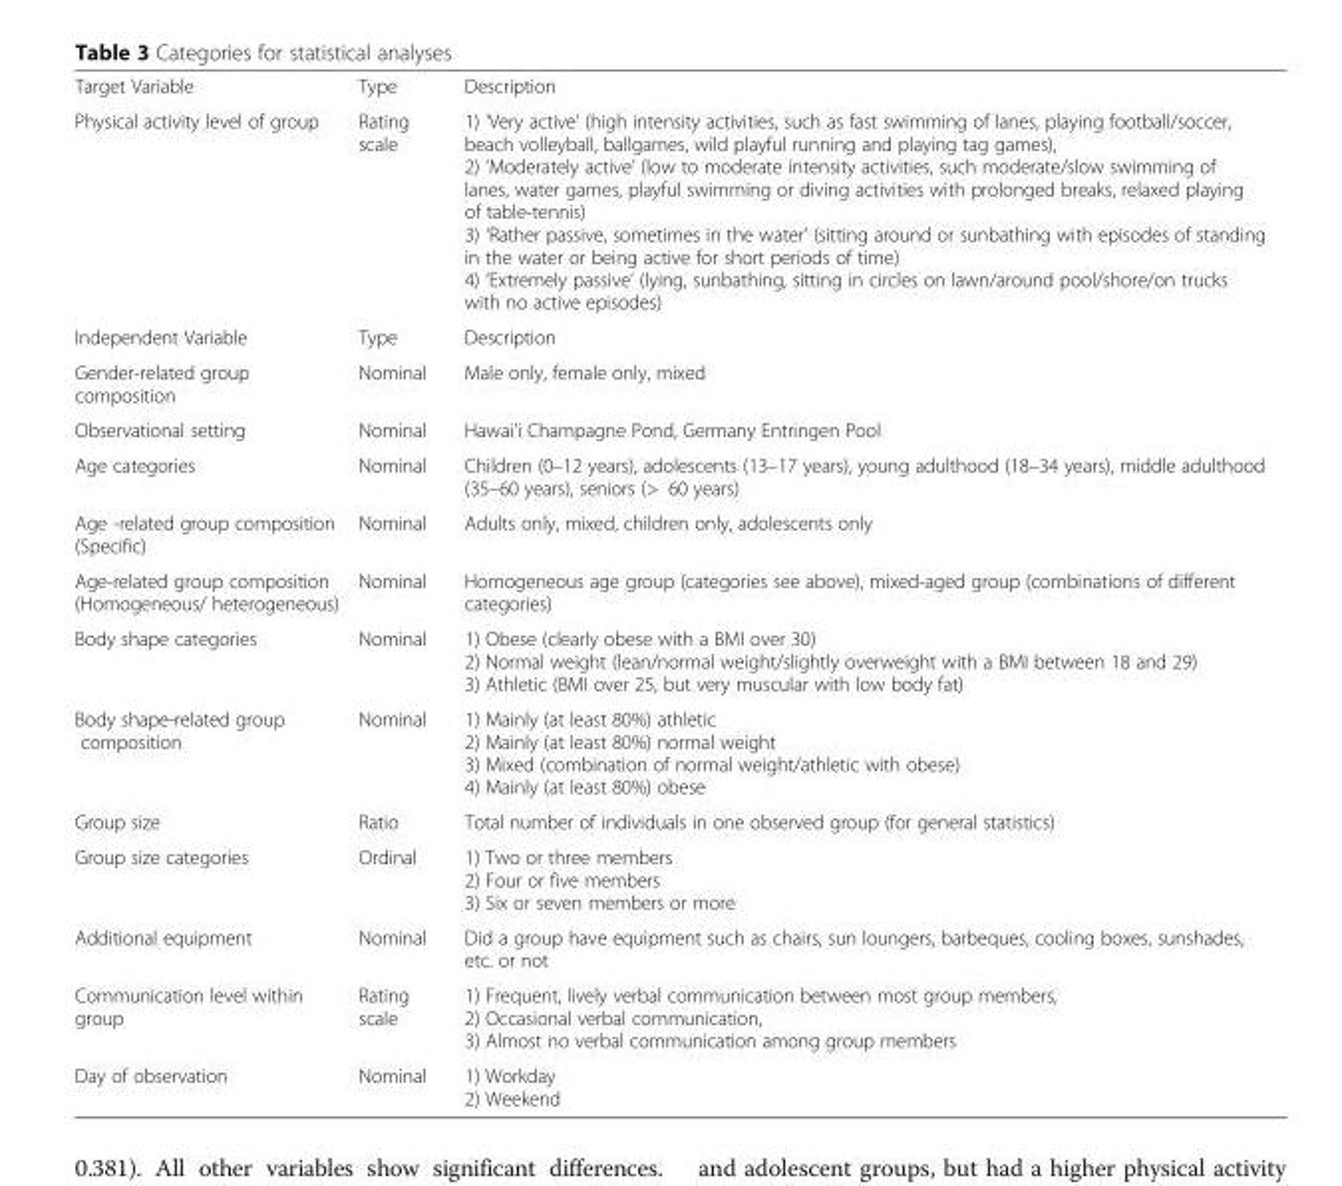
<table><tbody><tr><td>Target Variable</td><td>Type</td><td>Description</td></tr><tr><td>Physical activity level of group</td><td>Rating scale</td><td>1) ‘Very active’ (high intensity activities, such as fast swimming of lanes, playing football/soccer, beach volleyball, ballgames, wild playful running and playing tag games), 2) ‘Moderately active’ (low to moderate intensity activities, such moderate/slow swimming of lanes, water games, playful swimming or diving activities with prolonged breaks, relaxed playing of table-tennis) 3) ‘Rather passive, sometimes in the water’ (sitting around or sunbathing with episodes of standing in the water or being active for short periods of time) 4) ‘Extremely passive’ (lying, sunbathing, sitting in circles on lawn/around pool/shore/on trucks with no active episodes)</td></tr><tr><td>Independent Variable</td><td>Type</td><td>Description</td></tr><tr><td>Gender-related group composition</td><td>Nominal</td><td>Male only, female only, mixed</td></tr><tr><td>Observational setting</td><td>Nominal</td><td>Hawai’i Champagne Pond, Germany Entringen Pool</td></tr><tr><td>Age categories</td><td>Nominal</td><td>Children (0–12 years), adolescents (13–17 years), young adulthood (18–34 years), middle adulthood (35–60 years), seniors (&gt; 60 years)</td></tr><tr><td>Age -related group composition (Specific)</td><td>Nominal</td><td>Adults only, mixed, children only, adolescents only</td></tr><tr><td>Age-related group composition (Homogeneous/ heterogeneous)</td><td>Nominal</td><td>Homogeneous age group (categories see above), mixed-aged group (combinations of different categories)</td></tr><tr><td>Body shape categories</td><td>Nominal</td><td>1) Obese (clearly obese with a BMI over 30) 2) Normal weight (lean/normal weight/slightly overweight with a BMI between 18 and 29) 3) Athletic (BMI over 25, but very muscular with low body fat)</td></tr><tr><td>Body shape-related group composition</td><td>Nominal</td><td>1) Mainly (at least 80%) athletic 2) Mainly (at least 80%) normal weight 3) Mixed (combination of normal weight/athletic with obese) 4) Mainly (at least 80%) obese</td></tr><tr><td>Group size</td><td>Ratio</td><td>Total number of individuals in one observed group (for general statistics)</td></tr><tr><td>Group size categories</td><td>Ordinal</td><td>1) Two or three members 2) Four or five members 3) Six or seven members or more</td></tr><tr><td>Additional equipment</td><td>Nominal</td><td>Did a group have equipment such as chairs, sun loungers, barbeques, cooling boxes, sunshades, etc. or not</td></tr><tr><td>Communication level within group</td><td>Rating scale</td><td>1) Frequent, lively verbal communication between most group members, 2) Occasional verbal communication, 3) Almost no verbal communication among group members</td></tr><tr><td>Day of observation</td><td>Nominal</td><td>1) Workday 2) Weekend</td></tr></tbody></table>